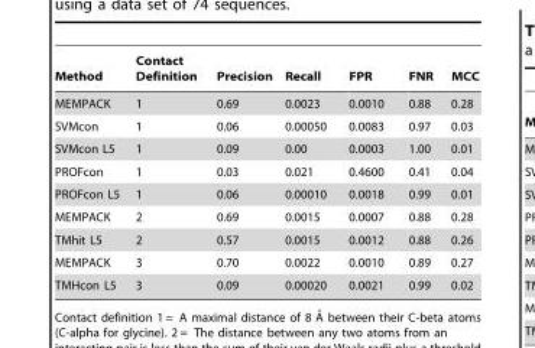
<table><thead><tr><td>Method</td><td>Contact Definition</td><td>Precision</td><td>Recall</td><td>FPR</td><td>FNR</td><td>MCC</td></tr></thead><tbody><tr><td>MEMPACK</td><td>1</td><td>0.69</td><td>0.0023</td><td>0.0010</td><td>0.88</td><td>0.28</td></tr><tr><td>SVMcon</td><td>1</td><td>0.06</td><td>0.00050</td><td>0.0083</td><td>0.97</td><td>0.03</td></tr><tr><td>SVMcon L5</td><td>1</td><td>0.09</td><td>0.00</td><td>0.0003</td><td>1.00</td><td>0.01</td></tr><tr><td>PROFcon</td><td>1</td><td>0.03</td><td>0.021</td><td>0.4600</td><td>0.41</td><td>0.04</td></tr><tr><td>PROFcon L5</td><td>1</td><td>0.06</td><td>0.00010</td><td>0.0018</td><td>0.99</td><td>0.01</td></tr><tr><td>MEMPACK</td><td>2</td><td>0.69</td><td>0.0015</td><td>0.0007</td><td>0.88</td><td>0.28</td></tr><tr><td>TMhit L5</td><td>2</td><td>0.57</td><td>0.0015</td><td>0.0012</td><td>0.88</td><td>0.26</td></tr><tr><td>MEMPACK</td><td>3</td><td>0.70</td><td>0.0022</td><td>0.0010</td><td>0.89</td><td>0.27</td></tr><tr><td>TMHcon L5</td><td>3</td><td>0.09</td><td>0.00020</td><td>0.0021</td><td>0.99</td><td>0.02</td></tr></tbody></table>